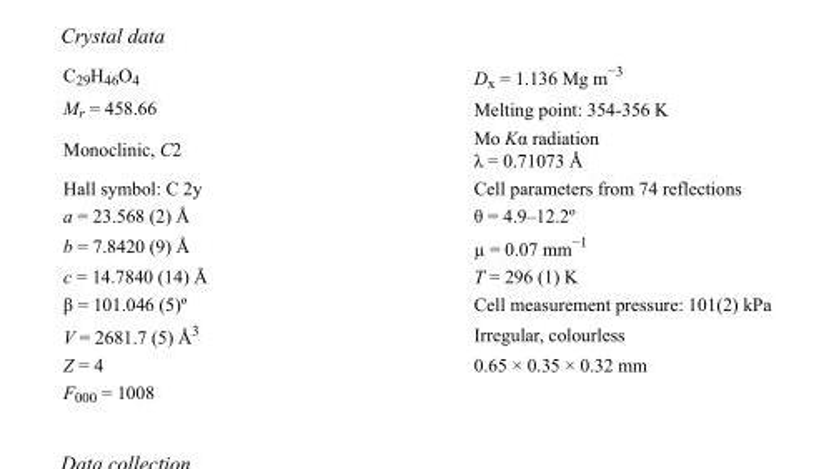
<table><tbody><tr><td>C<sub>29</sub>H<sub>46</sub>O<sub>4</sub></td><td>D<sub>x</sub> = 1.136 Mg m<sup>−3</sup></td></tr><tr><td>M<sub>r</sub> = 458.66</td><td>Melting point= 354-356 K</td></tr><tr><td>Monoclinic, C2</td><td>Mo Kα radiation λ = 0.71073 Å</td></tr><tr><td>Hall symbol: C 2y</td><td>Cell parameters from 74 reflections</td></tr><tr><td>a = 23.568 (2) Å</td><td>θ = 4.9–12.2º</td></tr><tr><td>b = 7.8420 (9) Å</td><td>µ = 0.07 mm<sup>−1</sup></td></tr><tr><td>c = 14.7840 (14) Å</td><td>T = 296 (1) K</td></tr><tr><td>β = 101.046 (5)º</td><td>Cell measurement pressure: 101(2) kPa</td></tr><tr><td>V = 2681.7 (5) Å<sup>3</sup></td><td>Irregular, colourless</td></tr><tr><td>Z = 4</td><td>0.65 × 0.35 × 0.32 mm</td></tr><tr><td>F<sub>000</sub> = 1008</td><td></td></tr></tbody></table>